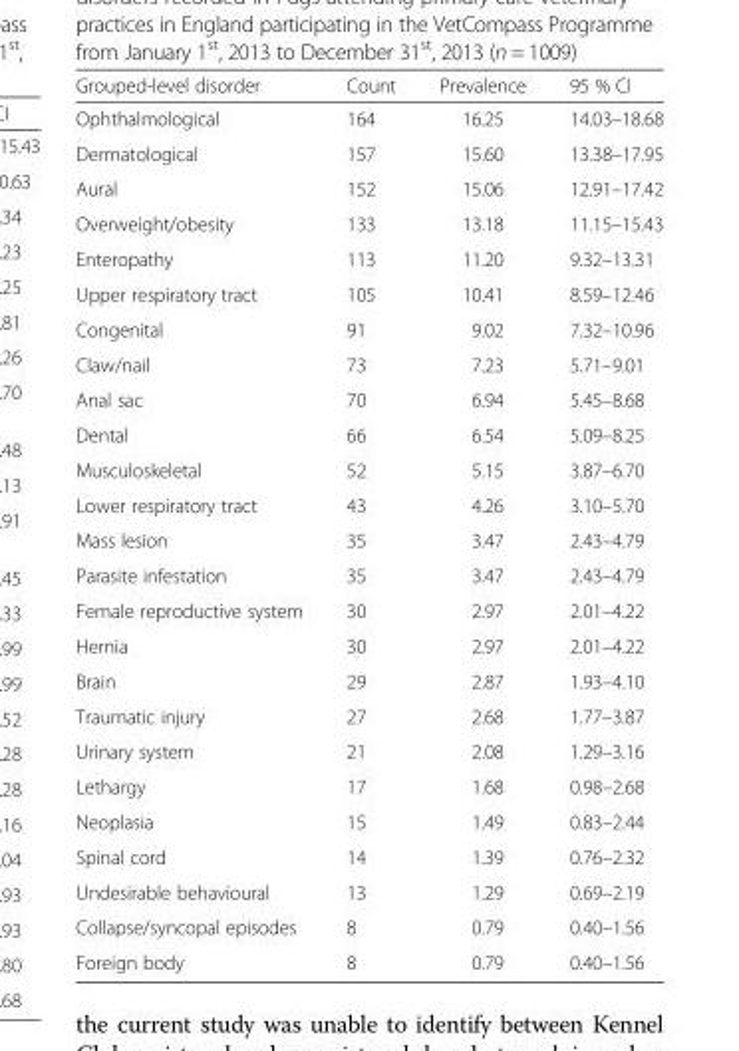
<table><thead><tr><td>Grouped-level disorder</td><td>Count</td><td>Prevalence</td><td>95 % CI</td></tr></thead><tbody><tr><td>Ophthalmological</td><td>164</td><td>16.25</td><td>14.03–18.68</td></tr><tr><td>Dermatological</td><td>157</td><td>15.60</td><td>13.38–17.95</td></tr><tr><td>Aural</td><td>152</td><td>15.06</td><td>12.91–17.42</td></tr><tr><td>Overweight/obesity</td><td>133</td><td>13.18</td><td>11.15–15.43</td></tr><tr><td>Enteropathy</td><td>113</td><td>11.20</td><td>9.32–13.31</td></tr><tr><td>Upper respiratory tract</td><td>105</td><td>10.41</td><td>8.59–12.46</td></tr><tr><td>Congenital</td><td>91</td><td>9.02</td><td>7.32–10.96</td></tr><tr><td>Claw/nail</td><td>73</td><td>7.23</td><td>5.71–9.01</td></tr><tr><td>Anal sac</td><td>70</td><td>6.94</td><td>5.45–8.68</td></tr><tr><td>Dental</td><td>66</td><td>6.54</td><td>5.09–8.25</td></tr><tr><td>Musculoskeletal</td><td>52</td><td>5.15</td><td>3.87–6.70</td></tr><tr><td>Lower respiratory tract</td><td>43</td><td>4.26</td><td>3.10–5.70</td></tr><tr><td>Mass lesion</td><td>35</td><td>3.47</td><td>2.43–4.79</td></tr><tr><td>Parasite infestation</td><td>35</td><td>3.47</td><td>2.43–4.79</td></tr><tr><td>Female reproductive system</td><td>30</td><td>2.97</td><td>2.01–4.22</td></tr><tr><td>Hernia</td><td>30</td><td>2.97</td><td>2.01–4.22</td></tr><tr><td>Brain</td><td>29</td><td>2.87</td><td>1.93–4.10</td></tr><tr><td>Traumatic injury</td><td>27</td><td>2.68</td><td>1.77–3.87</td></tr><tr><td>Urinary system</td><td>21</td><td>2.08</td><td>1.29–3.16</td></tr><tr><td>Lethargy</td><td>17</td><td>1.68</td><td>0.98–2.68</td></tr><tr><td>Neoplasia</td><td>15</td><td>1.49</td><td>0.83–2.44</td></tr><tr><td>Spinal cord</td><td>14</td><td>1.39</td><td>0.76–2.32</td></tr><tr><td>Undesirable behavioural</td><td>13</td><td>1.29</td><td>0.69–2.19</td></tr><tr><td>Collapse/syncopal episodes</td><td>8</td><td>0.79</td><td>0.40–1.56</td></tr><tr><td>Foreign body</td><td>8</td><td>0.79</td><td>0.40–1.56</td></tr></tbody></table>